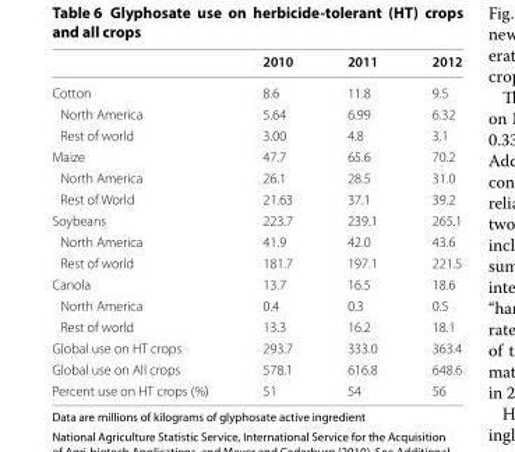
<table><thead><tr><td></td><td>2010</td><td>2011</td><td>2012</td></tr></thead><tbody><tr><td>Cotton</td><td>8.6</td><td>11.8</td><td>9.5</td></tr><tr><td>North America</td><td>5.64</td><td>6.99</td><td>6.32</td></tr><tr><td>Rest of world</td><td>3.00</td><td>4.8</td><td>3.1</td></tr><tr><td>Maize</td><td>47.7</td><td>65.6</td><td>70.2</td></tr><tr><td>North America</td><td>26.1</td><td>28.5</td><td>31.0</td></tr><tr><td>Rest of World</td><td>21.63</td><td>37.1</td><td>39.2</td></tr><tr><td>Soybeans</td><td>223.7</td><td>239.1</td><td>265.1</td></tr><tr><td>North America</td><td>41.9</td><td>42.0</td><td>43.6</td></tr><tr><td>Rest of world</td><td>181.7</td><td>197.1</td><td>221.5</td></tr><tr><td>Canola</td><td>13.7</td><td>16.5</td><td>18.6</td></tr><tr><td>North America</td><td>0.4</td><td>0.3</td><td>0.5</td></tr><tr><td>Rest of world</td><td>13.3</td><td>16.2</td><td>18.1</td></tr><tr><td>Global use on HT crops</td><td>293.7</td><td>333.0</td><td>363.4</td></tr><tr><td>Global use on All crops</td><td>578.1</td><td>616.8</td><td>648.6</td></tr><tr><td>Percent use on HT crops (%)</td><td>51</td><td>54</td><td>56</td></tr></tbody></table>